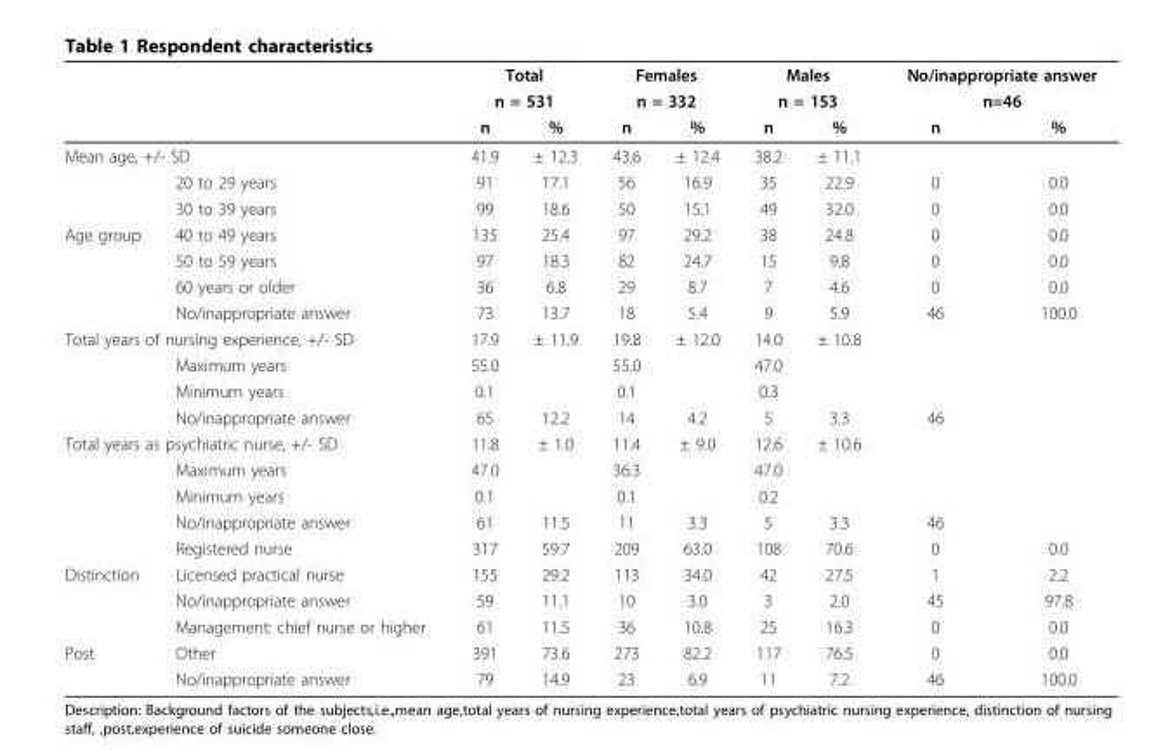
<table><thead><tr><td rowspan="3"></td><td rowspan="3"></td><td rowspan="2" colspan="2">Total n = 531</td><td rowspan="2" colspan="2">Females n = 332</td><td rowspan="2" colspan="2">Males n = 153</td><td rowspan="2" colspan="2">No/inappropriate answer n=46</td></tr><tr></tr><tr><td>n</td><td>%</td><td>n</td><td>%</td><td>n</td><td>%</td><td>n</td><td>%</td></tr></thead><tbody><tr><td colspan="2">Mean age, +/- SD</td><td>41.9</td><td>± 12.3</td><td>43.6</td><td>± 12.4</td><td>38.2</td><td>± 11.1</td><td></td><td></td></tr><tr><td></td><td>20 to 29 years</td><td>91</td><td>17.1</td><td>56</td><td>16.9</td><td>35</td><td>22.9</td><td>0</td><td>0.0</td></tr><tr><td></td><td>30 to 39 years</td><td>99</td><td>18.6</td><td>50</td><td>15.1</td><td>49</td><td>32.0</td><td>0</td><td>0.0</td></tr><tr><td rowspan="4">Age group</td><td>40 to 49 years</td><td>135</td><td>25.4</td><td>97</td><td>29.2</td><td>38</td><td>24.8</td><td>0</td><td>0.0</td></tr><tr><td>50 to 59 years</td><td>97</td><td>18.3</td><td>82</td><td>24.7</td><td>15</td><td>9.8</td><td>0</td><td>0.0</td></tr><tr><td>60 years or older</td><td>36</td><td>6.8</td><td>29</td><td>8.7</td><td>7</td><td>4.6</td><td>0</td><td>0.0</td></tr><tr><td>No/inappropriate answer</td><td>73</td><td>13.7</td><td>18</td><td>5.4</td><td>9</td><td>5.9</td><td>46</td><td>100.0</td></tr><tr><td colspan="2">Total years of nursing experience, +/- SD</td><td>17.9</td><td>± 11.9</td><td>19.8</td><td>± 12.0</td><td>14.0</td><td>± 10.8</td><td></td><td></td></tr><tr><td></td><td>Maximum years</td><td>55.0</td><td></td><td>55.0</td><td></td><td>47.0</td><td></td><td></td><td></td></tr><tr><td></td><td>Minimum years</td><td>0.1</td><td></td><td>0.1</td><td></td><td>0.3</td><td></td><td></td><td></td></tr><tr><td></td><td>No/inappropriate answer</td><td>65</td><td>12.2</td><td>14</td><td>4.2</td><td>5</td><td>3.3</td><td>46</td><td></td></tr><tr><td colspan="2">Total years as psychiatric nurse, +/- SD</td><td>11.8</td><td>± 1.0</td><td>11.4</td><td>± 9.0</td><td>12.6</td><td>± 10.6</td><td></td><td></td></tr><tr><td></td><td>Maximum years</td><td>47.0</td><td></td><td>36.3</td><td></td><td>47.0</td><td></td><td></td><td></td></tr><tr><td></td><td>Minimum years</td><td>0.1</td><td></td><td>0.1</td><td></td><td>0.2</td><td></td><td></td><td></td></tr><tr><td></td><td>No/inappropriate answer</td><td>61</td><td>11.5</td><td>11</td><td>3.3</td><td>5</td><td>3.3</td><td>46</td><td></td></tr><tr><td></td><td>Registered nurse</td><td>317</td><td>59.7</td><td>209</td><td>63.0</td><td>108</td><td>70.6</td><td>0</td><td>0.0</td></tr><tr><td rowspan="3">Distinction</td><td>Licensed practical nurse</td><td>155</td><td>29.2</td><td>113</td><td>34.0</td><td>42</td><td>27.5</td><td>1</td><td>2.2</td></tr><tr><td>No/inappropriate answer</td><td>59</td><td>11.1</td><td>10</td><td>3.0</td><td>3</td><td>2.0</td><td>45</td><td>97.8</td></tr><tr><td>Management: chief nurse or higher</td><td>61</td><td>11.5</td><td>36</td><td>10.8</td><td>25</td><td>16.3</td><td>0</td><td>0.0</td></tr><tr><td rowspan="2">Post</td><td>Other</td><td>391</td><td>73.6</td><td>273</td><td>82.2</td><td>117</td><td>76.5</td><td>0</td><td>0.0</td></tr><tr><td>No/inappropriate answer</td><td>79</td><td>14.9</td><td>23</td><td>6.9</td><td>11</td><td>7.2</td><td>46</td><td>100.0</td></tr></tbody></table>